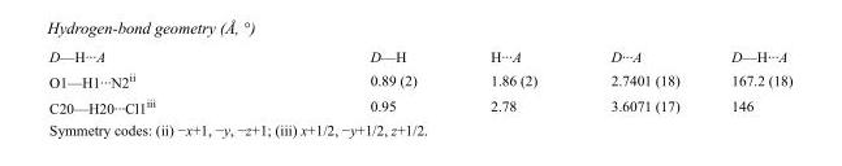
<table><tbody><tr><td>D—H···A</td><td>D—H</td><td>H···A</td><td>D···A</td><td>D—H···A</td></tr><tr><td>O1—H1···N2<sup>ii</sup></td><td>0.89 (2)</td><td>1.86 (2)</td><td>2.7401 (18)</td><td>167.2 (18)</td></tr><tr><td>C20—H20···Cl1<sup>iii</sup></td><td>0.95</td><td>2.78</td><td>3.6071 (17)</td><td>146</td></tr></tbody></table>